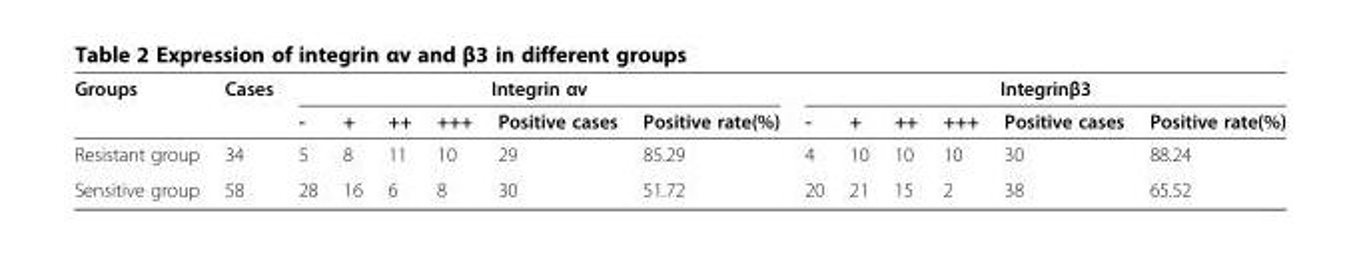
<table><thead><tr><td rowspan="2">Groups</td><td rowspan="2">Cases</td><td colspan="6">Integrin αv</td><td colspan="6">Integrinβ3</td></tr><tr><td>-</td><td>+</td><td>++</td><td>+++</td><td>Positive cases</td><td>Positive rate(%)</td><td>-</td><td>+</td><td>++</td><td>+++</td><td>Positive cases</td><td>Positive rate(%)</td></tr></thead><tbody><tr><td>Resistant group</td><td>34</td><td>5</td><td>8</td><td>11</td><td>10</td><td>29</td><td>85.29</td><td>4</td><td>10</td><td>10</td><td>10</td><td>30</td><td>88.24</td></tr><tr><td>Sensitive group</td><td>58</td><td>28</td><td>16</td><td>6</td><td>8</td><td>30</td><td>51.72</td><td>20</td><td>21</td><td>15</td><td>2</td><td>38</td><td>65.52</td></tr></tbody></table>